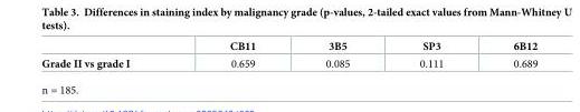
<table><thead><tr><td></td><td>CB11</td><td>3B5</td><td>SP3</td><td>6B12</td></tr></thead><tbody><tr><td>Grade II vs grade I</td><td>0.659</td><td>0.085</td><td>0.111</td><td>0.689</td></tr></tbody></table>